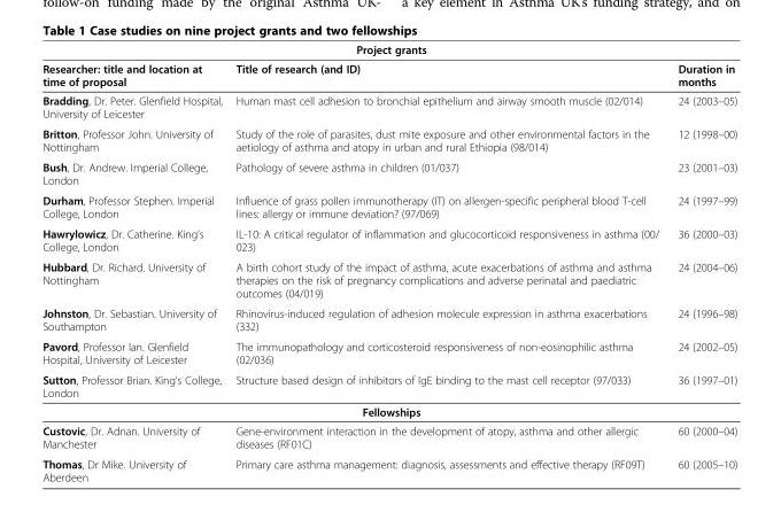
<table><thead><tr><td colspan="3">Project grants</td></tr><tr><td>Researcher: title and location at time of proposal</td><td>Title of research (and ID)</td><td>Duration in months</td></tr></thead><tbody><tr><td>Bradding, Dr. Peter. Glenfield Hospital, University of Leicester</td><td>Human mast cell adhesion to bronchial epithelium and airway smooth muscle (02/014)</td><td>24 (2003–05)</td></tr><tr><td>Britton, Professor John. University of Nottingham</td><td>Study of the role of parasites, dust mite exposure and other environmental factors in the aetiology of asthma and atopy in urban and rural Ethiopia (98/014)</td><td>12 (1998–00)</td></tr><tr><td>Bush, Dr. Andrew. Imperial College, London</td><td>Pathology of severe asthma in children (01/037)</td><td>23 (2001–03)</td></tr><tr><td>Durham, Professor Stephen. Imperial College, London</td><td>Influence of grass pollen immunotherapy (IT) on allergen-specific peripheral blood T-cell lines: allergy or immune deviation? (97/069)</td><td>24 (1997–99)</td></tr><tr><td>Hawrylowicz, Dr. Catherine. King’s College, London</td><td>IL-10: A critical regulator of inflammation and glucocorticoid responsiveness in asthma (00/ 023)</td><td>36 (2000–03)</td></tr><tr><td>Hubbard, Dr. Richard. University of Nottingham</td><td>A birth cohort study of the impact of asthma, acute exacerbations of asthma and asthma therapies on the risk of pregnancy complications and adverse perinatal and paediatric outcomes (04/019)</td><td>24 (2004–06)</td></tr><tr><td>Johnston, Dr. Sebastian. University of Southampton</td><td>Rhinovirus-induced regulation of adhesion molecule expression in asthma exacerbations (332)</td><td>24 (1996–98)</td></tr><tr><td>Pavord, Professor Ian. Glenfield Hospital, University of Leicester</td><td>The immunopathology and corticosteroid responsiveness of non-eosinophilic asthma (02/036)</td><td>24 (2002–05)</td></tr><tr><td>Sutton, Professor Brian. King’s College, London</td><td>Structure based design of inhibitors of IgE binding to the mast cell receptor (97/033)</td><td>36 (1997–01)</td></tr><tr><td colspan="3">Fellowships</td></tr><tr><td>Custovic, Dr. Adnan. University of Manchester</td><td>Gene-environment interaction in the development of atopy, asthma and other allergic diseases (RF01C)</td><td>60 (2000–04)</td></tr><tr><td>Thomas, Dr Mike. University of Aberdeen</td><td>Primary care asthma management: diagnosis, assessments and effective therapy (RF09T)</td><td>60 (2005–10)</td></tr></tbody></table>